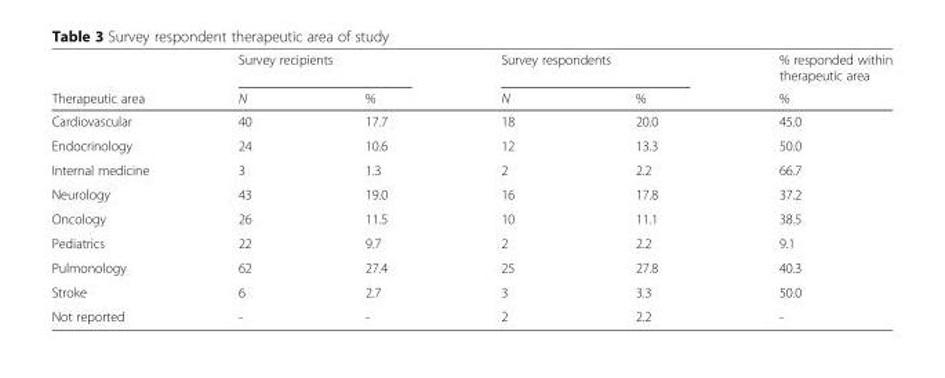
<table><thead><tr><td rowspan="2">Therapeutic area</td><td colspan="2">Survey recipients</td><td colspan="2">Survey respondents</td><td rowspan="2">% responded within therapeutic area %</td></tr><tr><td>N</td><td>%</td><td>N</td><td>%</td></tr></thead><tbody><tr><td>Cardiovascular</td><td>40</td><td>17.7</td><td>18</td><td>20.0</td><td>45.0</td></tr><tr><td>Endocrinology</td><td>24</td><td>10.6</td><td>12</td><td>13.3</td><td>50.0</td></tr><tr><td>Internal medicine</td><td>3</td><td>1.3</td><td>2</td><td>2.2</td><td>66.7</td></tr><tr><td>Neurology</td><td>43</td><td>19.0</td><td>16</td><td>17.8</td><td>37.2</td></tr><tr><td>Oncology</td><td>26</td><td>11.5</td><td>10</td><td>11.1</td><td>38.5</td></tr><tr><td>Pediatrics</td><td>22</td><td>9.7</td><td>2</td><td>2.2</td><td>9.1</td></tr><tr><td>Pulmonology</td><td>62</td><td>27.4</td><td>25</td><td>27.8</td><td>40.3</td></tr><tr><td>Stroke</td><td>6</td><td>2.7</td><td>3</td><td>3.3</td><td>50.0</td></tr><tr><td>Not reported</td><td>-</td><td>-</td><td>2</td><td>2.2</td><td>-</td></tr></tbody></table>